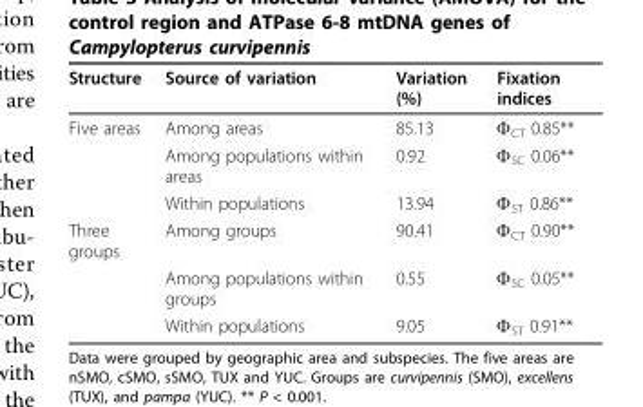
<table><thead><tr><td>Structure</td><td>Source of variation</td><td>Variation (%)</td><td>Fixation indices</td></tr></thead><tbody><tr><td rowspan="3">Five areas</td><td>Among areas</td><td>85.13</td><td>Φ<sub>CT</sub> 0.85**</td></tr><tr><td>Among populations within areas</td><td>0.92</td><td>Φ<sub>SC</sub> 0.06**</td></tr><tr><td>Within populations</td><td>13.94</td><td>Φ<sub>ST</sub> 0.86**</td></tr><tr><td rowspan="3">Three groups</td><td>Among groups</td><td>90.41</td><td>Φ<sub>CT</sub> 0.90**</td></tr><tr><td>Among populations within groups</td><td>0.55</td><td>Φ<sub>SC</sub> 0.05**</td></tr><tr><td>Within populations</td><td>9.05</td><td>Φ<sub>ST</sub> 0.91**</td></tr></tbody></table>